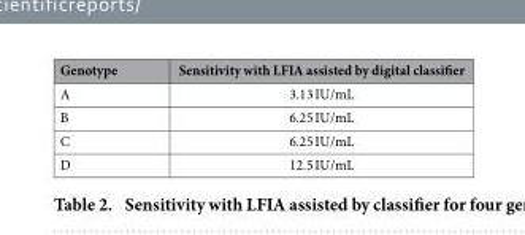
<table><thead><tr><td>Genotype</td><td>Sensitivity with LFIA assisted by digital classifier</td></tr></thead><tbody><tr><td>A</td><td>3.13 IU/mL</td></tr><tr><td>B</td><td>6.25 IU/mL</td></tr><tr><td>C</td><td>6.25 IU/mL</td></tr><tr><td>D</td><td>12.5 IU/mL</td></tr></tbody></table>